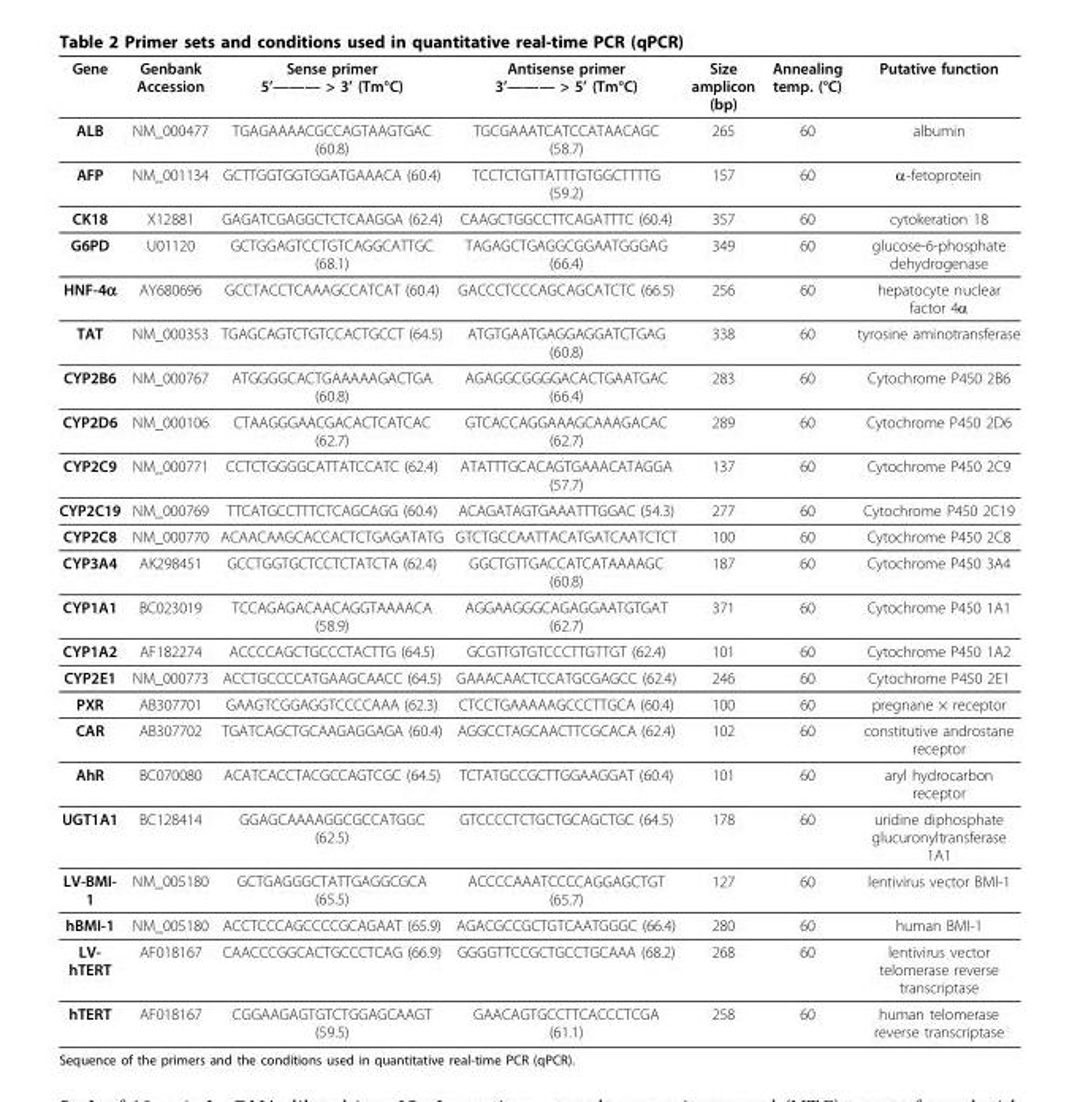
<table><thead><tr><td>Gene</td><td>Genbank Accession</td><td>Sense primer 5’——— &gt; 3’ (Tm°C)</td><td>Antisense primer 3’——— &gt; 5’ (Tm°C)</td><td>Size amplicon (bp)</td><td>Annealing temp. (°C)</td><td>Putative function</td></tr></thead><tbody><tr><td>ALB</td><td>NM_000477</td><td>TGAGAAAACGCCAGTAAGTGAC (60.8)</td><td>TGCGAAATCATCCATAACAGC (58.7)</td><td>265</td><td>60</td><td>albumin</td></tr><tr><td>AFP</td><td>NM_001134</td><td>GCTTGGTGGTGGATGAAACA (60.4)</td><td>TCCTCTGTTATTTGTGGCTTTTG (59.2)</td><td>157</td><td>60</td><td>α-fetoprotein</td></tr><tr><td>CK18</td><td>X12881</td><td>GAGATCGAGGCTCTCAAGGA (62.4)</td><td>CAAGCTGGCCTTCAGATTTC (60.4)</td><td>357</td><td>60</td><td>cytokeration 18</td></tr><tr><td>G6PD</td><td>U01120</td><td>GCTGGAGTCCTGTCAGGCATTGC (68.1)</td><td>TAGAGCTGAGGCGGAATGGGAG (66.4)</td><td>349</td><td>60</td><td>glucose-6-phosphate dehydrogenase</td></tr><tr><td>HNF-4α</td><td>AY680696</td><td>GCCTACCTCAAAGCCATCAT (60.4)</td><td>GACCCTCCCAGCAGCATCTC (66.5)</td><td>256</td><td>60</td><td>hepatocyte nuclear factor 4α</td></tr><tr><td>TAT</td><td>NM_000353</td><td>TGAGCAGTCTGTCCACTGCCT (64.5)</td><td>ATGTGAATGAGGAGGATCTGAG (60.8)</td><td>338</td><td>60</td><td>tyrosine aminotransferase</td></tr><tr><td>CYP2B6</td><td>NM_000767</td><td>ATGGGGCACTGAAAAAGACTGA (60.8)</td><td>AGAGGCGGGGACACTGAATGAC (66.4)</td><td>283</td><td>60</td><td>Cytochrome P450 2B6</td></tr><tr><td>CYP2D6</td><td>NM_000106</td><td>CTAAGGGAACGACACTCATCAC (62.7)</td><td>GTCACCAGGAAAGCAAAGACAC (62.7)</td><td>289</td><td>60</td><td>Cytochrome P450 2D6</td></tr><tr><td>CYP2C9</td><td>NM_000771</td><td>CCTCTGGGGCATTATCCATC (62.4)</td><td>ATATTTGCACAGTGAAACATAGGA (57.7)</td><td>137</td><td>60</td><td>Cytochrome P450 2C9</td></tr><tr><td>CYP2C19</td><td>NM_000769</td><td>TTCATGCCTTTCTCAGCAGG (60.4)</td><td>ACAGATAGTGAAATTTGGAC (54.3)</td><td>277</td><td>60</td><td>Cytochrome P450 2C19</td></tr><tr><td>CYP2C8</td><td>NM_000770</td><td>ACAACAAGCACCACTCTGAGATATG</td><td>GTCTGCCAATTACATGATCAATCTCT</td><td>100</td><td>60</td><td>Cytochrome P450 2C8</td></tr><tr><td>CYP3A4</td><td>AK298451</td><td>GCCTGGTGCTCCTCTATCTA (62.4)</td><td>GGCTGTTGACCATCATAAAAGC (60.8)</td><td>187</td><td>60</td><td>Cytochrome P450 3A4</td></tr><tr><td>CYP1A1</td><td>BC023019</td><td>TCCAGAGACAACAGGTAAAACA (58.9)</td><td>AGGAAGGGCAGAGGAATGTGAT (62.7)</td><td>371</td><td>60</td><td>Cytochrome P450 1A1</td></tr><tr><td>CYP1A2</td><td>AF182274</td><td>ACCCCAGCTGCCCTACTTG (64.5)</td><td>GCGTTGTGTCCCTTGTTGT (62.4)</td><td>101</td><td>60</td><td>Cytochrome P450 1A2</td></tr><tr><td>CYP2E1</td><td>NM_000773</td><td>ACCTGCCCCATGAAGCAACC (64.5)</td><td>GAAACAACTCCATGCGAGCC (62.4)</td><td>246</td><td>60</td><td>Cytochrome P450 2E1</td></tr><tr><td>PXR</td><td>AB307701</td><td>GAAGTCGGAGGTCCCCAAA (62.3)</td><td>CTCCTGAAAAAGCCCTTGCA (60.4)</td><td>100</td><td>60</td><td>pregnane × receptor</td></tr><tr><td>CAR</td><td>AB307702</td><td>TGATCAGCTGCAAGAGGAGA (60.4)</td><td>AGGCCTAGCAACTTCGCACA (62.4)</td><td>102</td><td>60</td><td>constitutive androstane receptor</td></tr><tr><td>AhR</td><td>BC070080</td><td>ACATCACCTACGCCAGTCGC (64.5)</td><td>TCTATGCCGCTTGGAAGGAT (60.4)</td><td>101</td><td>60</td><td>aryl hydrocarbon receptor</td></tr><tr><td>UGT1A1</td><td>BC128414</td><td>GGAGCAAAAGGCGCCATGGC (62.5)</td><td>GTCCCCTCTGCTGCAGCTGC (64.5)</td><td>178</td><td>60</td><td>uridine diphosphate glucuronyltransferase 1A1</td></tr><tr><td>LV-BMI- 1</td><td>NM_005180</td><td>GCTGAGGGCTATTGAGGCGCA (65.5)</td><td>ACCCCAAATCCCCAGGAGCTGT (65.7)</td><td>127</td><td>60</td><td>lentivirus vector BMI-1</td></tr><tr><td>hBMI-1</td><td>NM_005180</td><td>ACCTCCCAGCCCCGCAGAAT (65.9)</td><td>AGACGCCGCTGTCAATGGGC (66.4)</td><td>280</td><td>60</td><td>human BMI-1</td></tr><tr><td>LV- hTERT</td><td>AF018167</td><td>CAACCCGGCACTGCCCTCAG (66.9)</td><td>GGGGTTCCGCTGCCTGCAAA (68.2)</td><td>268</td><td>60</td><td>lentivirus vector telomerase reverse transcriptase</td></tr><tr><td>hTERT</td><td>AF018167</td><td>CGGAAGAGTGTCTGGAGCAAGT (59.5)</td><td>GAACAGTGCCTTCACCCTCGA (61.1)</td><td>258</td><td>60</td><td>human telomerase reverse transcriptase</td></tr></tbody></table>